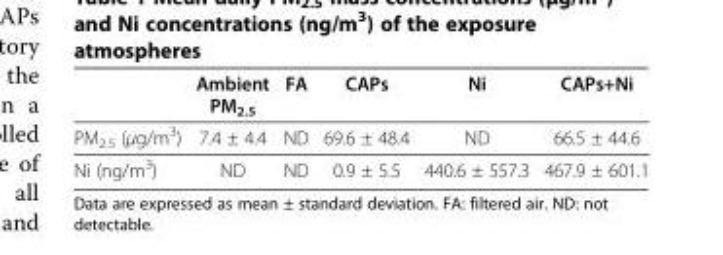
<table><thead><tr><td></td><td>Ambient PM<sub>2.5</sub></td><td>FA</td><td>CAPs</td><td>Ni</td><td>CAPs+Ni</td></tr></thead><tbody><tr><td>PM<sub>2.5</sub> (μg/m<sup>3</sup>)</td><td>7.4 ± 4.4</td><td>ND</td><td>69.6 ± 48.4</td><td>ND</td><td>66.5 ± 44.6</td></tr><tr><td>Ni (ng/m<sup>3</sup>)</td><td>ND</td><td>ND</td><td>0.9 ± 5.5</td><td>440.6 ± 557.3</td><td>467.9 ± 601.1</td></tr></tbody></table>